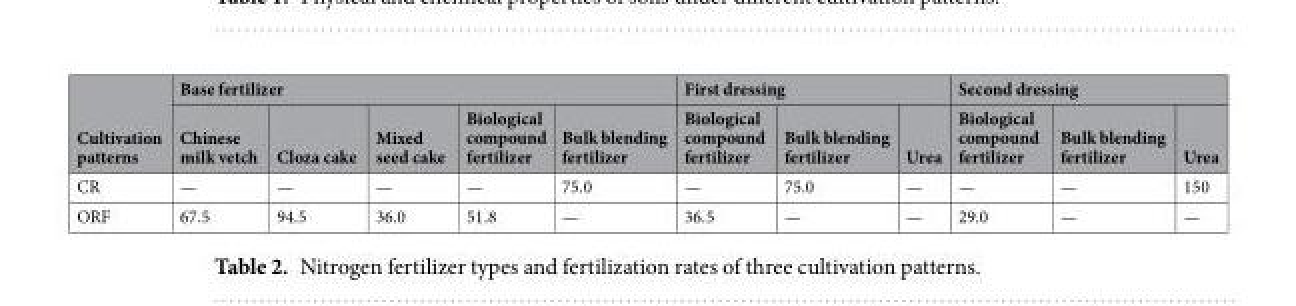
<table><thead><tr><td rowspan="2">Cultivation patterns</td><td colspan="5">Base fertilizer</td><td colspan="3">First dressing</td><td colspan="3">Second dressing</td></tr><tr><td>Chinese milk vetch</td><td>Cloza cake</td><td>Mixed seed cake</td><td>Biological compound fertilizer</td><td>Bulk blending fertilizer</td><td>Biological compound fertilizer</td><td>Bulk blending fertilizer</td><td>Urea</td><td>Biological compound fertilizer</td><td>Bulk blending fertilizer</td><td>Urea</td></tr></thead><tbody><tr><td>CR</td><td>—</td><td>—</td><td>—</td><td>—</td><td>75.0</td><td>—</td><td>75.0</td><td>—</td><td>—</td><td>—</td><td>150</td></tr><tr><td>ORF</td><td>67.5</td><td>94.5</td><td>36.0</td><td>51.8</td><td>—</td><td>36.5</td><td>—</td><td>—</td><td>29.0</td><td>—</td><td>—</td></tr></tbody></table>